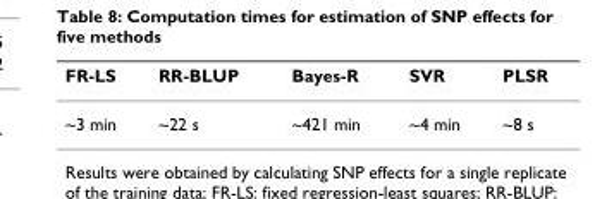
<table><thead><tr><td>FR-LS</td><td>RR-BLUP</td><td>Bayes-R</td><td>SVR</td><td>PLSR</td></tr></thead><tbody><tr><td>~3 min</td><td>~22 s</td><td>~421 min</td><td>~4 min</td><td>~8 s</td></tr></tbody></table>